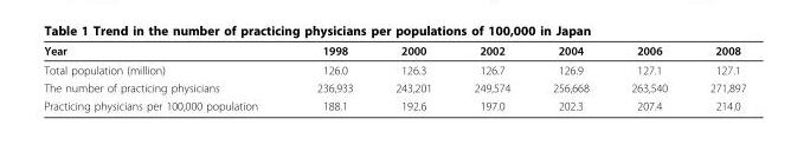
<table><thead><tr><td>Year</td><td>1998</td><td>2000</td><td>2002</td><td>2004</td><td>2006</td><td>2008</td></tr></thead><tbody><tr><td>Total population (million)</td><td>126.0</td><td>126.3</td><td>126.7</td><td>126.9</td><td>127.1</td><td>127.1</td></tr><tr><td>The number of practicing physicians</td><td>236,933</td><td>243,201</td><td>249,574</td><td>256,668</td><td>263,540</td><td>271,897</td></tr><tr><td>Practicing physicians per 100,000 population</td><td>188.1</td><td>192.6</td><td>197.0</td><td>202.3</td><td>207.4</td><td>214.0</td></tr></tbody></table>